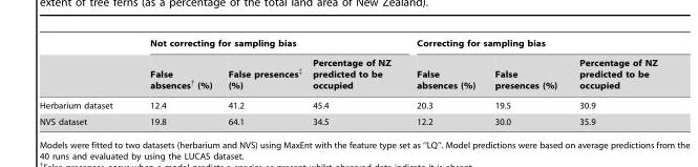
<table><thead><tr><td rowspan="2"></td><td colspan="3">Not correcting for sampling bias</td><td colspan="3">Correcting for sampling bias</td></tr><tr><td>False absences† (%)</td><td>False presences‡ (%)</td><td>Percentage of NZ predicted to be occupied</td><td>False absences (%)</td><td>False presences (%)</td><td>Percentage of NZ predicted to be occupied</td></tr></thead><tbody><tr><td>Herbarium dataset</td><td>12.4</td><td>41.2</td><td>45.4</td><td>20.3</td><td>19.5</td><td>30.9</td></tr><tr><td>NVS dataset</td><td>19.8</td><td>64.1</td><td>34.5</td><td>12.2</td><td>30.0</td><td>35.9</td></tr></tbody></table>